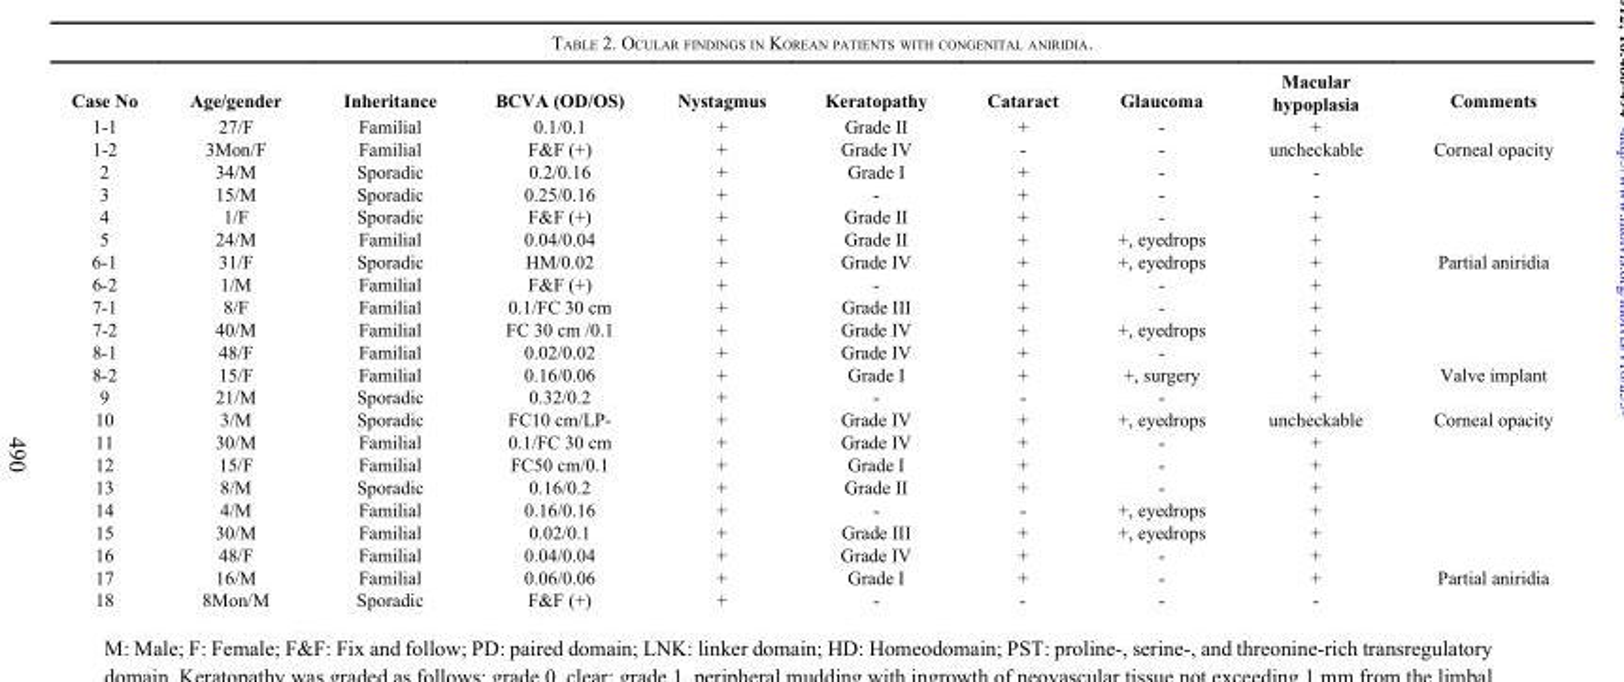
<table><thead><tr><td>Case No</td><td>Age/gender</td><td>Inheritance</td><td>BCVA (OD/OS)</td><td>Nystagmus</td><td>Keratopathy</td><td>Cataract</td><td>Glaucoma</td><td>Macular hypoplasia</td><td>Comments</td></tr></thead><tbody><tr><td>1-1</td><td>27/F</td><td>Familial</td><td>0.1/0.1</td><td>+</td><td>Grade II</td><td>+</td><td>-</td><td>+</td><td></td></tr><tr><td>1-2</td><td>3Mon/F</td><td>Familial</td><td>F&amp;F (+)</td><td>+</td><td>Grade IV</td><td>-</td><td>-</td><td>uncheckable</td><td>Corneal opacity</td></tr><tr><td>2</td><td>34/M</td><td>Sporadic</td><td>0.2/0.16</td><td>+</td><td>Grade I</td><td>+</td><td>-</td><td>-</td><td></td></tr><tr><td>3</td><td>15/M</td><td>Sporadic</td><td>0.25/0.16</td><td>+</td><td>-</td><td>+</td><td>-</td><td>-</td><td></td></tr><tr><td>4</td><td>1/F</td><td>Sporadic</td><td>F&amp;F (+)</td><td>+</td><td>Grade II</td><td>+</td><td>-</td><td>+</td><td></td></tr><tr><td>5</td><td>24/M</td><td>Familial</td><td>0.04/0.04</td><td>+</td><td>Grade II</td><td>+</td><td>+, eyedrops</td><td>+</td><td></td></tr><tr><td>6-1</td><td>31/F</td><td>Sporadic</td><td>HM/0.02</td><td>+</td><td>Grade IV</td><td>+</td><td>+, eyedrops</td><td>+</td><td>Partial aniridia</td></tr><tr><td>6-2</td><td>1/M</td><td>Familial</td><td>F&amp;F (+)</td><td>+</td><td>-</td><td>+</td><td>-</td><td>+</td><td></td></tr><tr><td>7-1</td><td>8/F</td><td>Familial</td><td>0.1/FC 30 cm</td><td>+</td><td>Grade III</td><td>+</td><td>-</td><td>+</td><td></td></tr><tr><td>7-2</td><td>40/M</td><td>Familial</td><td>FC 30 cm /0.1</td><td>+</td><td>Grade IV</td><td>+</td><td>+, eyedrops</td><td>+</td><td></td></tr><tr><td>8-1</td><td>48/F</td><td>Familial</td><td>0.02/0.02</td><td>+</td><td>Grade IV</td><td>+</td><td>-</td><td>+</td><td></td></tr><tr><td>8-2</td><td>15/F</td><td>Familial</td><td>0.16/0.06</td><td>+</td><td>Grade I</td><td>+</td><td>+, surgery</td><td>+</td><td>Valve implant</td></tr><tr><td>9</td><td>21/M</td><td>Sporadic</td><td>0.32/0.2</td><td>+</td><td>-</td><td>-</td><td>-</td><td>+</td><td></td></tr><tr><td>10</td><td>3/M</td><td>Sporadic</td><td>FC10 cm/LP-</td><td>+</td><td>Grade IV</td><td>+</td><td>+, eyedrops</td><td>uncheckable</td><td>Corneal opacity</td></tr><tr><td>11</td><td>30/M</td><td>Familial</td><td>0.1/FC 30 cm</td><td>+</td><td>Grade IV</td><td>+</td><td>-</td><td>+</td><td></td></tr><tr><td>12</td><td>15/F</td><td>Familial</td><td>FC50 cm/0.1</td><td>+</td><td>Grade I</td><td>+</td><td>-</td><td>+</td><td></td></tr><tr><td>13</td><td>8/M</td><td>Sporadic</td><td>0.16/0.2</td><td>+</td><td>Grade II</td><td>+</td><td>-</td><td>+</td><td></td></tr><tr><td>14</td><td>4/M</td><td>Familial</td><td>0.16/0.16</td><td>+</td><td>-</td><td>-</td><td>+, eyedrops</td><td>+</td><td></td></tr><tr><td>15</td><td>30/M</td><td>Familial</td><td>0.02/0.1</td><td>+</td><td>Grade III</td><td>+</td><td>+, eyedrops</td><td>+</td><td></td></tr><tr><td>16</td><td>48/F</td><td>Familial</td><td>0.04/0.04</td><td>+</td><td>Grade IV</td><td>+</td><td>-</td><td>+</td><td></td></tr><tr><td>17</td><td>16/M</td><td>Familial</td><td>0.06/0.06</td><td>+</td><td>Grade I</td><td>+</td><td>-</td><td>+</td><td>Partial aniridia</td></tr><tr><td>18</td><td>8Mon/M</td><td>Sporadic</td><td>F&amp;F (+)</td><td>+</td><td>-</td><td>-</td><td>-</td><td>-</td><td></td></tr></tbody></table>